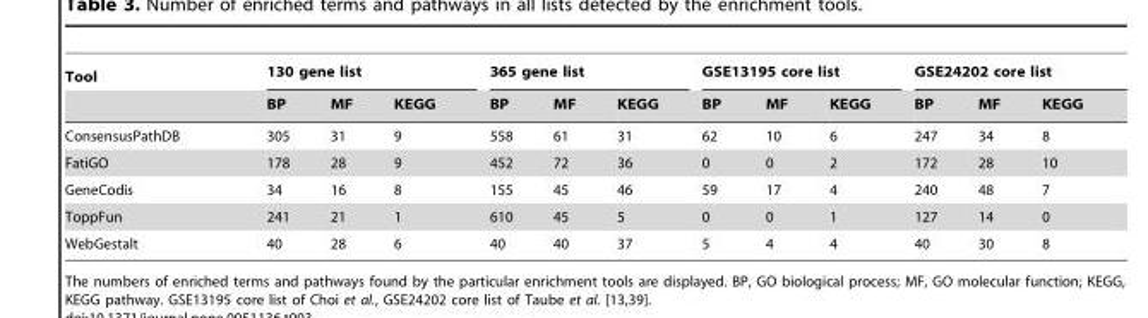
<table><thead><tr><td rowspan="2">Tool</td><td colspan="3">130 gene list</td><td colspan="3">365 gene list</td><td colspan="3">GSE13195 core list</td><td colspan="3">GSE24202 core list</td></tr><tr><td>BP</td><td>MF</td><td>KEGG</td><td>BP</td><td>MF</td><td>KEGG</td><td>BP</td><td>MF</td><td>KEGG</td><td>BP</td><td>MF</td><td>KEGG</td></tr></thead><tbody><tr><td>ConsensusPathDB</td><td>305</td><td>31</td><td>9</td><td>558</td><td>61</td><td>31</td><td>62</td><td>10</td><td>6</td><td>247</td><td>34</td><td>8</td></tr><tr><td>FatiGO</td><td>178</td><td>28</td><td>9</td><td>452</td><td>72</td><td>36</td><td>0</td><td>0</td><td>2</td><td>172</td><td>28</td><td>10</td></tr><tr><td>GeneCodis</td><td>34</td><td>16</td><td>8</td><td>155</td><td>45</td><td>46</td><td>59</td><td>17</td><td>4</td><td>240</td><td>48</td><td>7</td></tr><tr><td>ToppFun</td><td>241</td><td>21</td><td>1</td><td>610</td><td>45</td><td>5</td><td>0</td><td>0</td><td>1</td><td>127</td><td>14</td><td>0</td></tr><tr><td>WebGestalt</td><td>40</td><td>28</td><td>6</td><td>40</td><td>40</td><td>37</td><td>5</td><td>4</td><td>4</td><td>40</td><td>30</td><td>8</td></tr></tbody></table>